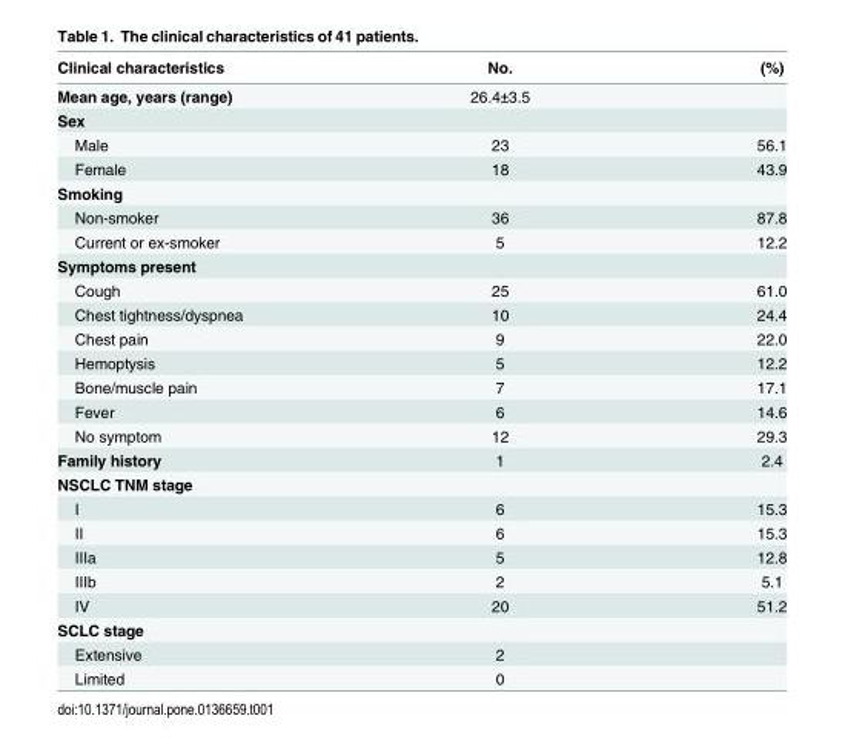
<table><thead><tr><td>Clinical characteristics</td><td>No.</td><td>(%)</td></tr></thead><tbody><tr><td>Mean age, years (range)</td><td>26.4±3.5</td><td></td></tr><tr><td colspan="3">Sex</td></tr><tr><td>Male</td><td>23</td><td>56.1</td></tr><tr><td>Female</td><td>18</td><td>43.9</td></tr><tr><td colspan="3">Smoking</td></tr><tr><td>Non-smoker</td><td>36</td><td>87.8</td></tr><tr><td>Current or ex-smoker</td><td>5</td><td>12.2</td></tr><tr><td colspan="3">Symptoms present</td></tr><tr><td>Cough</td><td>25</td><td>61.0</td></tr><tr><td>Chest tightness/dyspnea</td><td>10</td><td>24.4</td></tr><tr><td>Chest pain</td><td>9</td><td>22.0</td></tr><tr><td>Hemoptysis</td><td>5</td><td>12.2</td></tr><tr><td>Bone/muscle pain</td><td>7</td><td>17.1</td></tr><tr><td>Fever</td><td>6</td><td>14.6</td></tr><tr><td>No symptom</td><td>12</td><td>29.3</td></tr><tr><td>Family history</td><td>1</td><td>2.4</td></tr><tr><td colspan="3">NSCLC TNM stage</td></tr><tr><td>I</td><td>6</td><td>15.3</td></tr><tr><td>II</td><td>6</td><td>15.3</td></tr><tr><td>IIIa</td><td>5</td><td>12.8</td></tr><tr><td>IIIb</td><td>2</td><td>5.1</td></tr><tr><td>IV</td><td>20</td><td>51.2</td></tr><tr><td colspan="3">SCLC stage</td></tr><tr><td>Extensive</td><td>2</td><td></td></tr><tr><td>Limited</td><td>0</td><td></td></tr></tbody></table>